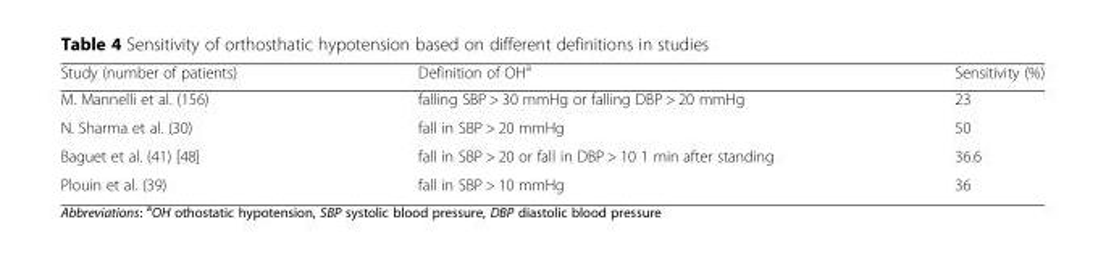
<table><thead><tr><td>Study (number of patients)</td><td>Definition of OH<sup>a</sup></td><td>Sensitivity (%)</td></tr></thead><tbody><tr><td>M. Mannelli et al. (156)</td><td>falling SBP &gt; 30 mmHg or falling DBP &gt; 20 mmHg</td><td>23</td></tr><tr><td>N. Sharma et al. (30)</td><td>fall in SBP &gt; 20 mmHg</td><td>50</td></tr><tr><td>Baguet et al. (41) [48]</td><td>fall in SBP &gt; 20 or fall in DBP &gt; 10 1 min after standing</td><td>36.6</td></tr><tr><td>Plouin et al. (39)</td><td>fall in SBP &gt; 10 mmHg</td><td>36</td></tr></tbody></table>